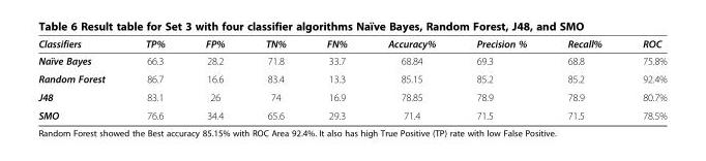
<table><thead><tr><td>Classifiers</td><td>TP%</td><td>FP%</td><td>TN%</td><td>FN%</td><td>Accuracy%</td><td>Precision %</td><td>Recall%</td><td>ROC</td></tr></thead><tbody><tr><td>Naïve Bayes</td><td>66.3</td><td>28.2</td><td>71.8</td><td>33.7</td><td>68.84</td><td>69.3</td><td>68.8</td><td>75.8%</td></tr><tr><td>Random Forest</td><td>86.7</td><td>16.6</td><td>83.4</td><td>13.3</td><td>85.15</td><td>85.2</td><td>85.2</td><td>92.4%</td></tr><tr><td>J48</td><td>83.1</td><td>26</td><td>74</td><td>16.9</td><td>78.85</td><td>78.9</td><td>78.9</td><td>80.7%</td></tr><tr><td>SMO</td><td>76.6</td><td>34.4</td><td>65.6</td><td>29.3</td><td>71.4</td><td>71.5</td><td>71.5</td><td>78.5%</td></tr></tbody></table>